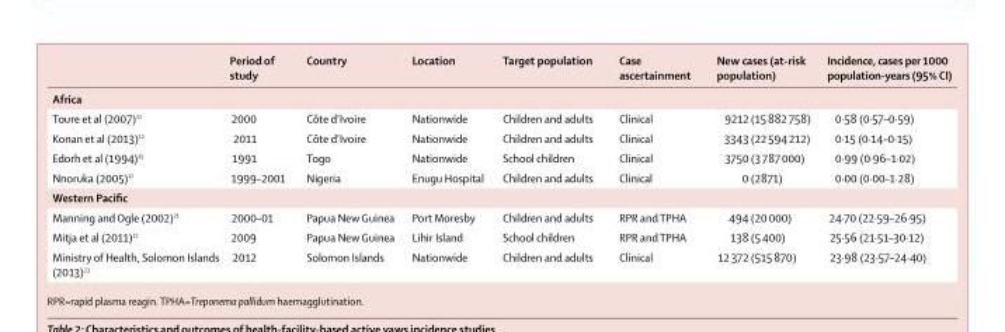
<table><thead><tr><td></td><td>Period of study</td><td>Country</td><td>Location</td><td>Target population</td><td>Case ascertainment</td><td>New cases (at-risk population)</td><td>Incidence, cases per 1000 population-years (95% CI)</td></tr></thead><tbody><tr><td colspan="8">Africa</td></tr><tr><td>Toure et al (2007)<sup>11</sup></td><td>2000</td><td>Côte d’Ivoire</td><td>Nationwide</td><td>Children and adults</td><td>Clinical</td><td>9212 (15 882 758)</td><td>0·58 (0·57–0·59)</td></tr><tr><td>Konan et al (2013)<sup>12</sup></td><td>2011</td><td>Côte d’Ivoire</td><td>Nationwide</td><td>Children and adults</td><td>Clinical</td><td>3343 (22 594 212)</td><td>0·15 (0·14–0·15)</td></tr><tr><td>Edorh et al (1994)<sup>15</sup></td><td>1991</td><td>Togo</td><td>Nationwide</td><td>School children</td><td>Clinical</td><td>3750 (3 787 000)</td><td>0·99 (0·96–1·02)</td></tr><tr><td>Nnoruka (2005)<sup>17</sup></td><td>1999–2001</td><td>Nigeria</td><td>Enugu Hospital</td><td>Children and adults</td><td>Clinical</td><td>0 (2871)</td><td>0·00 (0·00–1·28)</td></tr><tr><td colspan="8">Western Pacifi c</td></tr><tr><td>Manning and Ogle (2002)<sup>21</sup></td><td>2000–01</td><td>Papua New Guinea</td><td>Port Moresby</td><td>Children and adults</td><td>RPR and TPHA</td><td>494 (20 000)</td><td>24·70 (22·59–26·95)</td></tr><tr><td>Mitja et al (2011)<sup>22</sup></td><td>2009</td><td>Papua New Guinea</td><td>Lihir Island</td><td>School children</td><td>RPR and TPHA</td><td>138 (5 400)</td><td>25·56 (21·51–30·12)</td></tr><tr><td>Ministry of Health, Solomon Islands (2013)<sup>23</sup></td><td>2012</td><td>Solomon Islands</td><td>Nationwide</td><td>Children and adults</td><td>Clinical</td><td>12 372 (515 870)</td><td>23·98 (23·57–24·40)</td></tr></tbody></table>